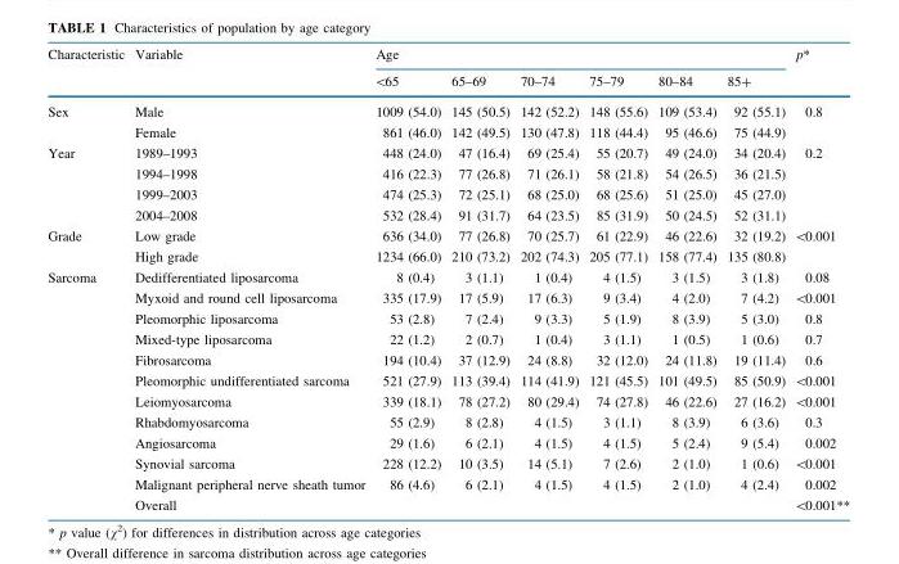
<table><thead><tr><td rowspan="2">Characteristic</td><td rowspan="2">Variable</td><td colspan="6">Age</td><td rowspan="2">p*</td></tr><tr><td>&lt;65</td><td>65–69</td><td>70–74</td><td>75–79</td><td>80–84</td><td>85+</td></tr></thead><tbody><tr><td rowspan="2">Sex</td><td>Male</td><td>1009 (54.0)</td><td>145 (50.5)</td><td>142 (52.2)</td><td>148 (55.6)</td><td>109 (53.4)</td><td>92 (55.1)</td><td>0.8</td></tr><tr><td>Female</td><td>861 (46.0)</td><td>142 (49.5)</td><td>130 (47.8)</td><td>118 (44.4)</td><td>95 (46.6)</td><td>75 (44.9)</td><td></td></tr><tr><td rowspan="4">Year</td><td>1989–1993</td><td>448 (24.0)</td><td>47 (16.4)</td><td>69 (25.4)</td><td>55 (20.7)</td><td>49 (24.0)</td><td>34 (20.4)</td><td>0.2</td></tr><tr><td>1994–1998</td><td>416 (22.3)</td><td>77 (26.8)</td><td>71 (26.1)</td><td>58 (21.8)</td><td>54 (26.5)</td><td>36 (21.5)</td><td></td></tr><tr><td>1999–2003</td><td>474 (25.3)</td><td>72 (25.1)</td><td>68 (25.0)</td><td>68 (25.6)</td><td>51 (25.0)</td><td>45 (27.0)</td><td></td></tr><tr><td>2004–2008</td><td>532 (28.4)</td><td>91 (31.7)</td><td>64 (23.5)</td><td>85 (31.9)</td><td>50 (24.5)</td><td>52 (31.1)</td><td></td></tr><tr><td rowspan="2">Grade</td><td>Low grade</td><td>636 (34.0)</td><td>77 (26.8)</td><td>70 (25.7)</td><td>61 (22.9)</td><td>46 (22.6)</td><td>32 (19.2)</td><td>&lt;0.001</td></tr><tr><td>High grade</td><td>1234 (66.0)</td><td>210 (73.2)</td><td>202 (74.3)</td><td>205 (77.1)</td><td>158 (77.4)</td><td>135 (80.8)</td><td></td></tr><tr><td rowspan="12">Sarcoma</td><td>Dedifferentiated liposarcoma</td><td>8 (0.4)</td><td>3 (1.1)</td><td>1 (0.4)</td><td>4 (1.5)</td><td>3 (1.5)</td><td>3 (1.8)</td><td>0.08</td></tr><tr><td>Myxoid and round cell liposarcoma</td><td>335 (17.9)</td><td>17 (5.9)</td><td>17 (6.3)</td><td>9 (3.4)</td><td>4 (2.0)</td><td>7 (4.2)</td><td>&lt;0.001</td></tr><tr><td>Pleomorphic liposarcoma</td><td>53 (2.8)</td><td>7 (2.4)</td><td>9 (3.3)</td><td>5 (1.9)</td><td>8 (3.9)</td><td>5 (3.0)</td><td>0.8</td></tr><tr><td>Mixed-type liposarcoma</td><td>22 (1.2)</td><td>2 (0.7)</td><td>1 (0.4)</td><td>3 (1.1)</td><td>1 (0.5)</td><td>1 (0.6)</td><td>0.7</td></tr><tr><td>Fibrosarcoma</td><td>194 (10.4)</td><td>37 (12.9)</td><td>24 (8.8)</td><td>32 (12.0)</td><td>24 (11.8)</td><td>19 (11.4)</td><td>0.6</td></tr><tr><td>Pleomorphic undifferentiated sarcoma</td><td>521 (27.9)</td><td>113 (39.4)</td><td>114 (41.9)</td><td>121 (45.5)</td><td>101 (49.5)</td><td>85 (50.9)</td><td>&lt;0.001</td></tr><tr><td>Leiomyosarcoma</td><td>339 (18.1)</td><td>78 (27.2)</td><td>80 (29.4)</td><td>74 (27.8)</td><td>46 (22.6)</td><td>27 (16.2)</td><td>&lt;0.001</td></tr><tr><td>Rhabdomyosarcoma</td><td>55 (2.9)</td><td>8 (2.8)</td><td>4 (1.5)</td><td>3 (1.1)</td><td>8 (3.9)</td><td>6 (3.6)</td><td>0.3</td></tr><tr><td>Angiosarcoma</td><td>29 (1.6)</td><td>6 (2.1)</td><td>4 (1.5)</td><td>4 (1.5)</td><td>5 (2.4)</td><td>9 (5.4)</td><td>0.002</td></tr><tr><td>Synovial sarcoma</td><td>228 (12.2)</td><td>10 (3.5)</td><td>14 (5.1)</td><td>7 (2.6)</td><td>2 (1.0)</td><td>1 (0.6)</td><td>&lt;0.001</td></tr><tr><td>Malignant peripheral nerve sheath tumor</td><td>86 (4.6)</td><td>6 (2.1)</td><td>4 (1.5)</td><td>4 (1.5)</td><td>2 (1.0)</td><td>4 (2.4)</td><td>0.002</td></tr><tr><td>Overall</td><td></td><td></td><td></td><td></td><td></td><td></td><td>&lt;0.001**</td></tr></tbody></table>